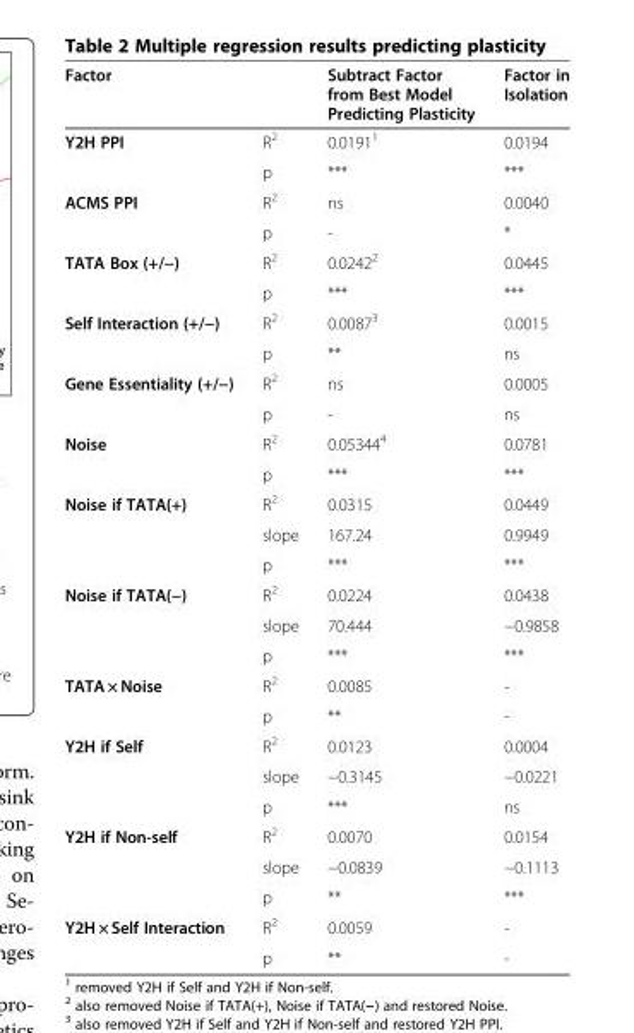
<table><thead><tr><td>Factor</td><td></td><td>Subtract Factor from Best Model Predicting Plasticity</td><td>Factor in Isolation</td></tr></thead><tbody><tr><td rowspan="2">Y2H PPI</td><td>R<sup>2</sup></td><td>0.0191<sup>1</sup></td><td>0.0194</td></tr><tr><td>p</td><td>***</td><td>***</td></tr><tr><td rowspan="2">ACMS PPI</td><td>R<sup>2</sup></td><td>ns</td><td>0.0040</td></tr><tr><td>p</td><td>-</td><td>*</td></tr><tr><td rowspan="2">TATA Box (+/−)</td><td>R<sup>2</sup></td><td>0.0242<sup>2</sup></td><td>0.0445</td></tr><tr><td>p</td><td>***</td><td>***</td></tr><tr><td rowspan="2">Self Interaction (+/−)</td><td>R<sup>2</sup></td><td>0.0087<sup>3</sup></td><td>0.0015</td></tr><tr><td>p</td><td>**</td><td>ns</td></tr><tr><td rowspan="2">Gene Essentiality (+/−)</td><td>R<sup>2</sup></td><td>ns</td><td>0.0005</td></tr><tr><td>p</td><td>-</td><td>ns</td></tr><tr><td rowspan="2">Noise</td><td>R<sup>2</sup></td><td>0.05344<sup>4</sup></td><td>0.0781</td></tr><tr><td>p</td><td>***</td><td>***</td></tr><tr><td rowspan="3">Noise if TATA(+)</td><td>R<sup>2</sup></td><td>0.0315</td><td>0.0449</td></tr><tr><td>slope</td><td>167.24</td><td>0.9949</td></tr><tr><td>p</td><td>***</td><td>***</td></tr><tr><td rowspan="3">Noise if TATA(−)</td><td>R<sup>2</sup></td><td>0.0224</td><td>0.0438</td></tr><tr><td>slope</td><td>70.444</td><td>−0.9858</td></tr><tr><td>p</td><td>***</td><td>***</td></tr><tr><td rowspan="2">TATA × Noise</td><td>R<sup>2</sup></td><td>0.0085</td><td>-</td></tr><tr><td>p</td><td>**</td><td>-</td></tr><tr><td rowspan="3">Y2H if Self</td><td>R<sup>2</sup></td><td>0.0123</td><td>0.0004</td></tr><tr><td>slope</td><td>−0.3145</td><td>−0.0221</td></tr><tr><td>p</td><td>***</td><td>ns</td></tr><tr><td rowspan="3">Y2H if Non-self</td><td>R<sup>2</sup></td><td>0.0070</td><td>0.0154</td></tr><tr><td>slope</td><td>−0.0839</td><td>−0.1113</td></tr><tr><td>p</td><td>**</td><td>***</td></tr><tr><td rowspan="2">Y2H × Self Interaction</td><td>R<sup>2</sup></td><td>0.0059</td><td>-</td></tr><tr><td>p</td><td>**</td><td>-</td></tr></tbody></table>